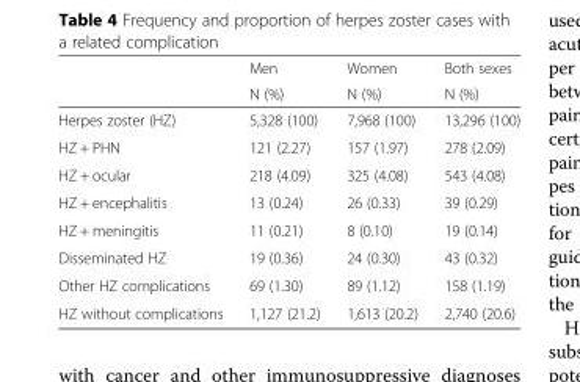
<table><thead><tr><td rowspan="2"></td><td rowspan="2">Men N (%)</td><td rowspan="2">Women N (%)</td><td rowspan="2">Both sexes N (%)</td></tr><tr></tr></thead><tbody><tr><td>Herpes zoster (HZ)</td><td>5,328 (100)</td><td>7,968 (100)</td><td>13,296 (100)</td></tr><tr><td>HZ + PHN</td><td>121 (2.27)</td><td>157 (1.97)</td><td>278 (2.09)</td></tr><tr><td>HZ + ocular</td><td>218 (4.09)</td><td>325 (4.08)</td><td>543 (4.08)</td></tr><tr><td>HZ + encephalitis</td><td>13 (0.24)</td><td>26 (0.33)</td><td>39 (0.29)</td></tr><tr><td>HZ + meningitis</td><td>11 (0.21)</td><td>8 (0.10)</td><td>19 (0.14)</td></tr><tr><td>Disseminated HZ</td><td>19 (0.36)</td><td>24 (0.30)</td><td>43 (0.32)</td></tr><tr><td>Other HZ complications</td><td>69 (1.30)</td><td>89 (1.12)</td><td>158 (1.19)</td></tr><tr><td>HZ without complications</td><td>1,127 (21.2)</td><td>1,613 (20.2)</td><td>2,740 (20.6)</td></tr></tbody></table>